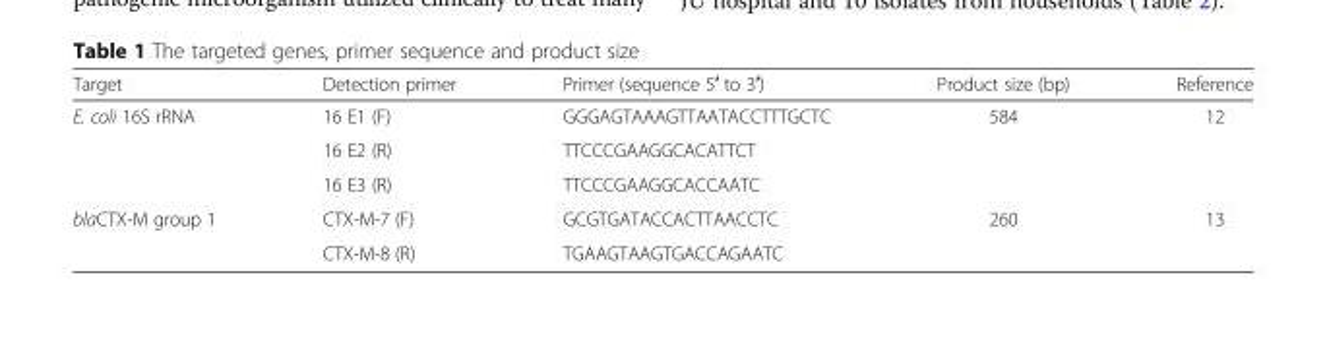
<table><thead><tr><td>Target</td><td>Detection primer</td><td>Primer (sequence 5′ to 3′)</td><td>Product size (bp)</td><td>Reference</td></tr></thead><tbody><tr><td rowspan="3">E. coli 16S rRNA</td><td>16 E1 (F)</td><td>GGGAGTAAAGTTAATACCTTTGCTC</td><td rowspan="3">584</td><td rowspan="3">12</td></tr><tr><td>16 E2 (R)</td><td>TTCCCGAAGGCACATTCT</td></tr><tr><td>16 E3 (R)</td><td>TTCCCGAAGGCACCAATC</td></tr><tr><td rowspan="2">blaCTX-M group 1</td><td>CTX-M-7 (F)</td><td>GCGTGATACCACTTAACCTC</td><td rowspan="2">260</td><td rowspan="2">13</td></tr><tr><td>CTX-M-8 (R)</td><td>TGAAGTAAGTGACCAGAATC</td></tr></tbody></table>